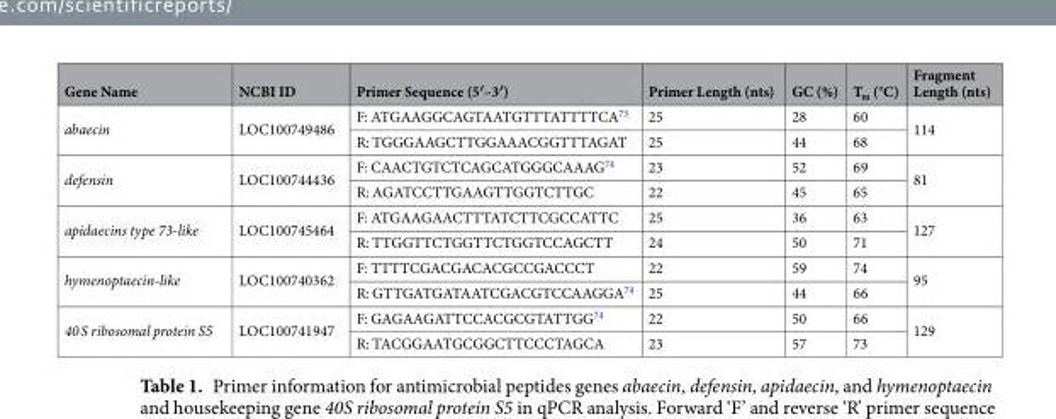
<table><thead><tr><td>Gene Name</td><td>NCBI ID</td><td>Primer Sequence (5′–3′)</td><td>Primer Length (nts)</td><td>GC (%)</td><td>T<sub>m</sub> (°C)</td><td>Fragment Length (nts)</td></tr></thead><tbody><tr><td rowspan="2">abaecin</td><td rowspan="2">LOC100749486</td><td>F: ATGAAGGCAGTAATGTTTATTTTCA<sup>73</sup></td><td>25</td><td>28</td><td>60</td><td rowspan="2">114</td></tr><tr><td>R: TGGGAAGCTTGGAAACGGTTTAGAT</td><td>25</td><td>44</td><td>68</td></tr><tr><td rowspan="2">defensin</td><td rowspan="2">LOC100744436</td><td>F: CAACTGTCTCAGCATGGGCAAAG<sup>74</sup></td><td>23</td><td>52</td><td>69</td><td rowspan="2">81</td></tr><tr><td>R: AGATCCTTGAAGTTGGTCTTGC</td><td>22</td><td>45</td><td>65</td></tr><tr><td rowspan="2">apidaecins type 73-like</td><td rowspan="2">LOC100745464</td><td>F: ATGAAGAACTTTATCTTCGCCATTC</td><td>25</td><td>36</td><td>63</td><td rowspan="2">127</td></tr><tr><td>R: TTGGTTCTGGTTCTGGTCCAGCTT</td><td>24</td><td>50</td><td>71</td></tr><tr><td rowspan="2">hymenoptaecin-like</td><td rowspan="2">LOC100740362</td><td>F: TTTTCGACGACACGCCGACCCT</td><td>22</td><td>59</td><td>74</td><td rowspan="2">95</td></tr><tr><td>R: GTTGATGATAATCGACGTCCAAGGA<sup>74</sup></td><td>25</td><td>44</td><td>66</td></tr><tr><td rowspan="2">40 S ribosomal protein S5</td><td rowspan="2">LOC100741947</td><td>F: GAGAAGATTCCACGCGTATTGG<sup>74</sup></td><td>22</td><td>50</td><td>66</td><td rowspan="2">129</td></tr><tr><td>R: TACGGAATGCGGCTTCCCTAGCA</td><td>23</td><td>57</td><td>73</td></tr></tbody></table>